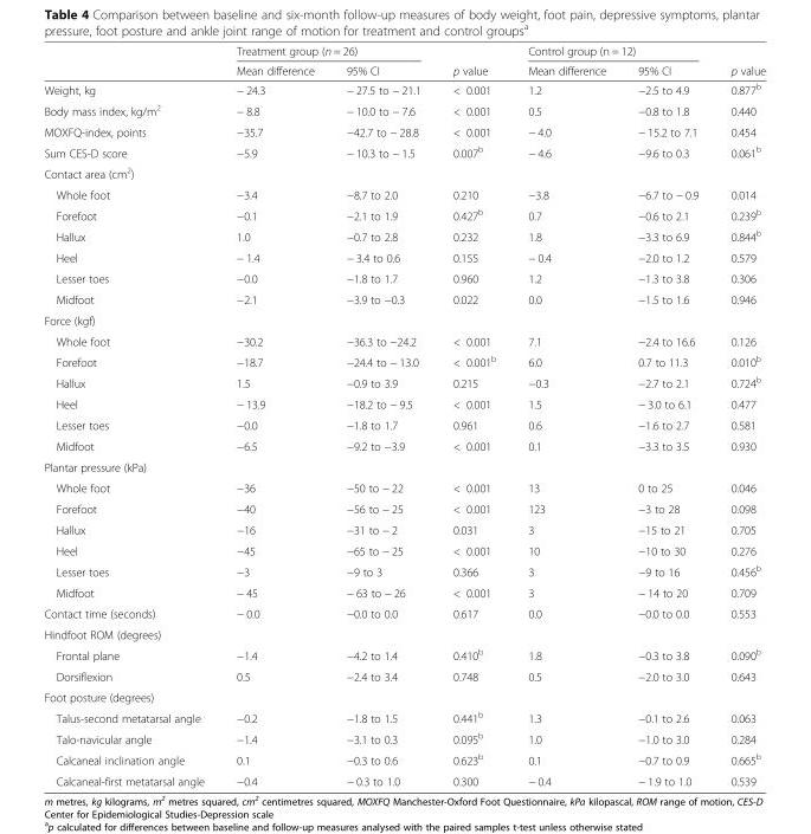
<table><thead><tr><td rowspan="2"></td><td colspan="2">Treatment group (n = 26)</td><td rowspan="2">p value</td><td colspan="2">Control group (n = 12)</td><td rowspan="2">p value</td></tr><tr><td>Mean difference</td><td>95% CI</td><td>Mean difference</td><td>95% CI</td></tr></thead><tbody><tr><td>Weight, kg</td><td>− 24.3</td><td>− 27.5 to − 21.1</td><td>&lt; 0.001</td><td>1.2</td><td>−2.5 to 4.9</td><td>0.877<sup>b</sup></td></tr><tr><td>Body mass index, kg/m<sup>2</sup></td><td>− 8.8</td><td>− 10.0 to − 7.6</td><td>&lt; 0.001</td><td>0.5</td><td>−0.8 to 1.8</td><td>0.440</td></tr><tr><td>MOXFQ-index, points</td><td>−35.7</td><td>−42.7 to − 28.8</td><td>&lt; 0.001</td><td>− 4.0</td><td>− 15.2 to 7.1</td><td>0.454</td></tr><tr><td>Sum CES-D score</td><td>−5.9</td><td>− 10.3 to − 1.5</td><td>0.007<sup>b</sup></td><td>− 4.6</td><td>−9.6 to 0.3</td><td>0.061<sup>b</sup></td></tr><tr><td colspan="7">Contact area (cm<sup>2</sup>)</td></tr><tr><td>Whole foot</td><td>−3.4</td><td>−8.7 to 2.0</td><td>0.210</td><td>−3.8</td><td>−6.7 to − 0.9</td><td>0.014</td></tr><tr><td>Forefoot</td><td>−0.1</td><td>−2.1 to 1.9</td><td>0.427<sup>b</sup></td><td>0.7</td><td>−0.6 to 2.1</td><td>0.239<sup>b</sup></td></tr><tr><td>Hallux</td><td>1.0</td><td>−0.7 to 2.8</td><td>0.232</td><td>1.8</td><td>−3.3 to 6.9</td><td>0.844<sup>b</sup></td></tr><tr><td>Heel</td><td>− 1.4</td><td>− 3.4 to 0.6</td><td>0.155</td><td>− 0.4</td><td>−2.0 to 1.2</td><td>0.579</td></tr><tr><td>Lesser toes</td><td>−0.0</td><td>−1.8 to 1.7</td><td>0.960</td><td>1.2</td><td>−1.3 to 3.8</td><td>0.306</td></tr><tr><td>Midfoot</td><td>−2.1</td><td>−3.9 to −0.3</td><td>0.022</td><td>0.0</td><td>−1.5 to 1.6</td><td>0.946</td></tr><tr><td colspan="7">Force (kgf)</td></tr><tr><td>Whole foot</td><td>−30.2</td><td>−36.3 to −24.2</td><td>&lt; 0.001</td><td>7.1</td><td>−2.4 to 16.6</td><td>0.126</td></tr><tr><td>Forefoot</td><td>−18.7</td><td>−24.4 to − 13.0</td><td>&lt; 0.001<sup>b</sup></td><td>6.0</td><td>0.7 to 11.3</td><td>0.010<sup>b</sup></td></tr><tr><td>Hallux</td><td>1.5</td><td>−0.9 to 3.9</td><td>0.215</td><td>−0.3</td><td>−2.7 to 2.1</td><td>0.724<sup>b</sup></td></tr><tr><td>Heel</td><td>− 13.9</td><td>−18.2 to − 9.5</td><td>&lt; 0.001</td><td>1.5</td><td>− 3.0 to 6.1</td><td>0.477</td></tr><tr><td>Lesser toes</td><td>−0.0</td><td>−1.8 to 1.7</td><td>0.961</td><td>0.6</td><td>−1.6 to 2.7</td><td>0.581</td></tr><tr><td>Midfoot</td><td>−6.5</td><td>−9.2 to −3.9</td><td>&lt; 0.001</td><td>0.1</td><td>−3.3 to 3.5</td><td>0.930</td></tr><tr><td colspan="7">Plantar pressure (kPa)</td></tr><tr><td>Whole foot</td><td>−36</td><td>−50 to − 22</td><td>&lt; 0.001</td><td>13</td><td>0 to 25</td><td>0.046</td></tr><tr><td>Forefoot</td><td>−40</td><td>−56 to − 25</td><td>&lt; 0.001</td><td>123</td><td>−3 to 28</td><td>0.098</td></tr><tr><td>Hallux</td><td>−16</td><td>−31 to − 2</td><td>0.031</td><td>3</td><td>−15 to 21</td><td>0.705</td></tr><tr><td>Heel</td><td>−45</td><td>−65 to − 25</td><td>&lt; 0.001</td><td>10</td><td>−10 to 30</td><td>0.276</td></tr><tr><td>Lesser toes</td><td>−3</td><td>−9 to 3</td><td>0.366</td><td>3</td><td>−9 to 16</td><td>0.456<sup>b</sup></td></tr><tr><td>Midfoot</td><td>− 45</td><td>− 63 to − 26</td><td>&lt; 0.001</td><td>3</td><td>− 14 to 20</td><td>0.709</td></tr><tr><td>Contact time (seconds)</td><td>− 0.0</td><td>−0.0 to 0.0</td><td>0.617</td><td>0.0</td><td>−0.0 to 0.0</td><td>0.553</td></tr><tr><td colspan="7">Hindfoot ROM (degrees)</td></tr><tr><td>Frontal plane</td><td>−1.4</td><td>−4.2 to 1.4</td><td>0.410<sup>b</sup></td><td>1.8</td><td>−0.3 to 3.8</td><td>0.090<sup>b</sup></td></tr><tr><td>Dorsiflexion</td><td>0.5</td><td>−2.4 to 3.4</td><td>0.748</td><td>0.5</td><td>−2.0 to 3.0</td><td>0.643</td></tr><tr><td colspan="7">Foot posture (degrees)</td></tr><tr><td>Talus-second metatarsal angle</td><td>−0.2</td><td>−1.8 to 1.5</td><td>0.441<sup>b</sup></td><td>1.3</td><td>−0.1 to 2.6</td><td>0.063</td></tr><tr><td>Talo-navicular angle</td><td>−1.4</td><td>−3.1 to 0.3</td><td>0.095<sup>b</sup></td><td>1.0</td><td>−1.0 to 3.0</td><td>0.284</td></tr><tr><td>Calcaneal inclination angle</td><td>0.1</td><td>−0.3 to 0.6</td><td>0.623<sup>b</sup></td><td>0.1</td><td>−0.7 to 0.9</td><td>0.665<sup>b</sup></td></tr><tr><td>Calcaneal-first metatarsal angle</td><td>−0.4</td><td>− 0.3 to 1.0</td><td>0.300</td><td>− 0.4</td><td>− 1.9 to 1.0</td><td>0.539</td></tr></tbody></table>